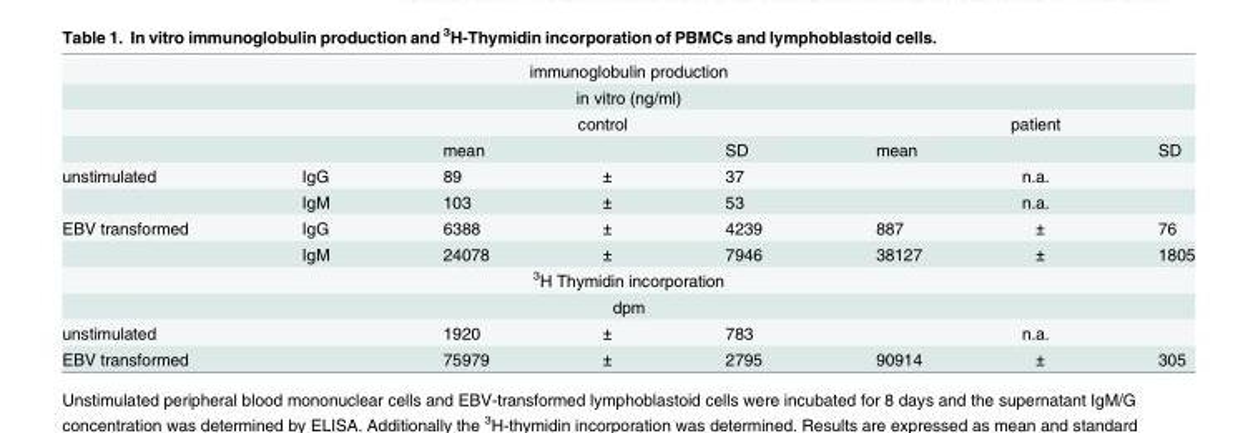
<table><tbody><tr><td colspan="8">immunoglobulin production</td></tr><tr><td colspan="8">in vitro (ng/ml)</td></tr><tr><td></td><td></td><td colspan="3">control</td><td colspan="3">patient</td></tr><tr><td></td><td></td><td>mean</td><td></td><td>SD</td><td>mean</td><td></td><td>SD</td></tr><tr><td rowspan="2">unstimulated</td><td>IgG</td><td>89</td><td>±</td><td>37</td><td colspan="3">n.a.</td></tr><tr><td>IgM</td><td>103</td><td>±</td><td>53</td><td colspan="3">n.a.</td></tr><tr><td rowspan="2">EBV transformed</td><td>IgG</td><td>6388</td><td>±</td><td>4239</td><td>887</td><td>±</td><td>76</td></tr><tr><td>IgM</td><td>24078</td><td>±</td><td>7946</td><td>38127</td><td>±</td><td>1805</td></tr><tr><td colspan="8"><sup>3</sup>H Thymidin incorporation</td></tr><tr><td colspan="8">dpm</td></tr><tr><td>unstimulated</td><td></td><td>1920</td><td>±</td><td>783</td><td colspan="3">n.a.</td></tr><tr><td>EBV transformed</td><td></td><td>75979</td><td>±</td><td>2795</td><td>90914</td><td>±</td><td>305</td></tr></tbody></table>